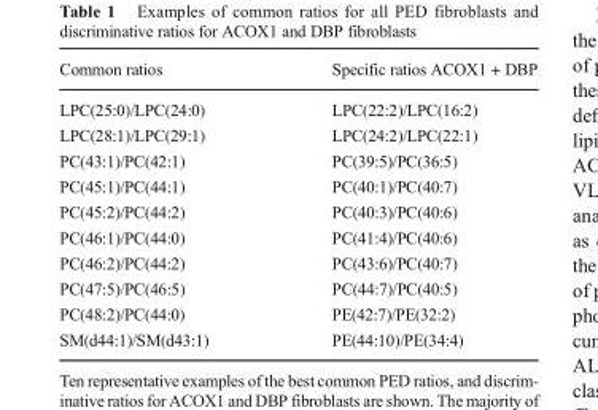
<table><thead><tr><td>Common ratios</td><td>Specific ratios ACOX1 + DBP</td></tr></thead><tbody><tr><td>LPC(25:0)/LPC(24:0)</td><td>LPC(22:2)/LPC(16:2)</td></tr><tr><td>LPC(28:1)/LPC(29:1)</td><td>LPC(24:2)/LPC(22:1)</td></tr><tr><td>PC(43:1)/PC(42:1)</td><td>PC(39:5)/PC(36:5)</td></tr><tr><td>PC(45:1)/PC(44:1)</td><td>PC(40:1)/PC(40:7)</td></tr><tr><td>PC(45:2)/PC(44:2)</td><td>PC(40:3)/PC(40:6)</td></tr><tr><td>PC(46:1)/PC(44:0)</td><td>PC(41:4)/PC(40:6)</td></tr><tr><td>PC(46:2)/PC(44:2)</td><td>PC(43:6)/PC(40:7)</td></tr><tr><td>PC(47:5)/PC(46:5)</td><td>PC(44:7)/PC(40:5)</td></tr><tr><td>PC(48:2)/PC(44:0)</td><td>PE(42:7)/PE(32:2)</td></tr><tr><td>SM(d44:1)/SM(d43:1)</td><td>PE(44:10)/PE(34:4)</td></tr></tbody></table>